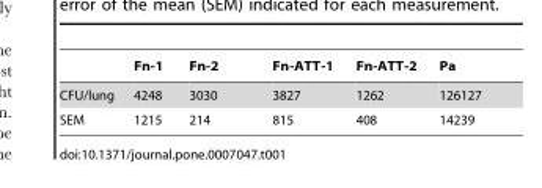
<table><thead><tr><td></td><td>Fn-1</td><td>Fn-2</td><td>Fn-ATT-1</td><td>Fn-ATT-2</td><td>Pa</td></tr></thead><tbody><tr><td>CFU/lung</td><td>4248</td><td>3030</td><td>3827</td><td>1262</td><td>126127</td></tr><tr><td>SEM</td><td>1215</td><td>214</td><td>815</td><td>408</td><td>14239</td></tr></tbody></table>